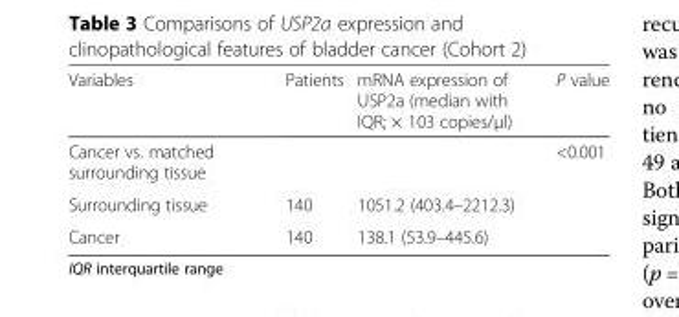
<table><thead><tr><td>Variables</td><td>Patients</td><td>mRNA expression of USP2a (median with IQR; × 103 copies/μl)</td><td>P value</td></tr></thead><tbody><tr><td>Cancer vs. matched surrounding tissue</td><td></td><td></td><td>&lt;0.001</td></tr><tr><td>Surrounding tissue</td><td>140</td><td>1051.2 (403.4–2212.3)</td><td></td></tr><tr><td>Cancer</td><td>140</td><td>138.1 (53.9–445.6)</td><td></td></tr></tbody></table>